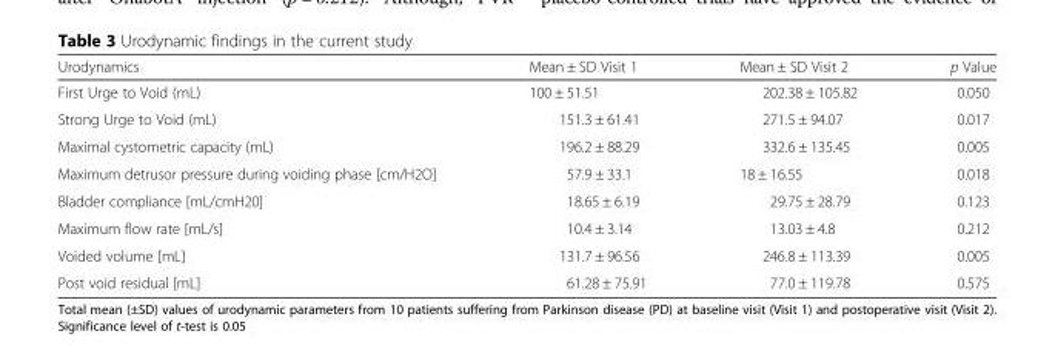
<table><thead><tr><td>Urodynamics</td><td>Mean ± SD Visit 1</td><td>Mean ± SD Visit 2</td><td>p Value</td></tr></thead><tbody><tr><td>First Urge to Void (mL)</td><td>100 ± 51.51</td><td>202.38 ± 105.82</td><td>0.050</td></tr><tr><td>Strong Urge to Void (mL)</td><td>151.3 ± 61.41</td><td>271.5 ± 94.07</td><td>0.017</td></tr><tr><td>Maximal cystometric capacity (mL)</td><td>196.2 ± 88.29</td><td>332.6 ± 135.45</td><td>0.005</td></tr><tr><td>Maximum detrusor pressure during voiding phase [cm/H2O]</td><td>57.9 ± 33.1</td><td>18 ± 16.55</td><td>0.018</td></tr><tr><td>Bladder compliance [mL/cmH20]</td><td>18.65 ± 6.19</td><td>29.75 ± 28.79</td><td>0.123</td></tr><tr><td>Maximum flow rate [mL/s]</td><td>10.4 ± 3.14</td><td>13.03 ± 4.8</td><td>0.212</td></tr><tr><td>Voided volume [mL]</td><td>131.7 ± 96.56</td><td>246.8 ± 113.39</td><td>0.005</td></tr><tr><td>Post void residual [mL]</td><td>61.28 ± 75.91</td><td>77.0 ± 119.78</td><td>0.575</td></tr></tbody></table>